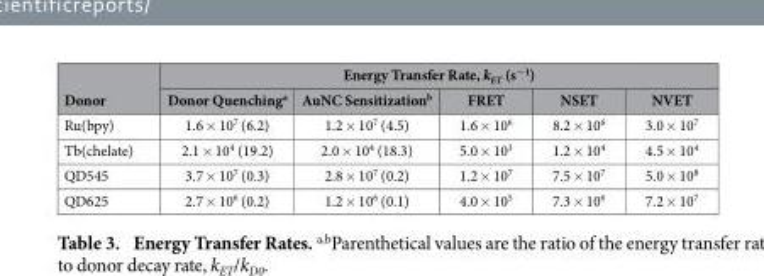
<table><thead><tr><td rowspan="2">Donor</td><td colspan="5">Energy Transfer Rate, k<sub>ET</sub> (s<sup>−1</sup>)</td></tr><tr><td>Donor Quenching<sup>a</sup></td><td>AuNC Sensitization<sup>b</sup></td><td>FRET</td><td>NSET</td><td>NVET</td></tr></thead><tbody><tr><td>Ru(bpy)</td><td>1.6 × 10<sup>7</sup> (6.2)</td><td>1.2 × 10<sup>7</sup> (4.5)</td><td>1.6 × 10<sup>6</sup></td><td>8.2 × 10<sup>6</sup></td><td>3.0 × 10<sup>7</sup></td></tr><tr><td>Tb(chelate)</td><td>2.1 × 10<sup>4</sup> (19.2)</td><td>2.0 × 10<sup>4</sup> (18.3)</td><td>5.0 × 10<sup>3</sup></td><td>1.2 × 10<sup>4</sup></td><td>4.5 × 10<sup>4</sup></td></tr><tr><td>QD545</td><td>3.7 × 10<sup>7</sup> (0.3)</td><td>2.8 × 10<sup>7</sup> (0.2)</td><td>1.2 × 10<sup>7</sup></td><td>7.5 × 10<sup>7</sup></td><td>5.0 × 10<sup>8</sup></td></tr><tr><td>QD625</td><td>2.7 × 10<sup>6</sup> (0.2)</td><td>1.2 × 10<sup>6</sup> (0.1)</td><td>4.0 × 10<sup>5</sup></td><td>7.3 × 10<sup>6</sup></td><td>7.2 × 10<sup>7</sup></td></tr></tbody></table>